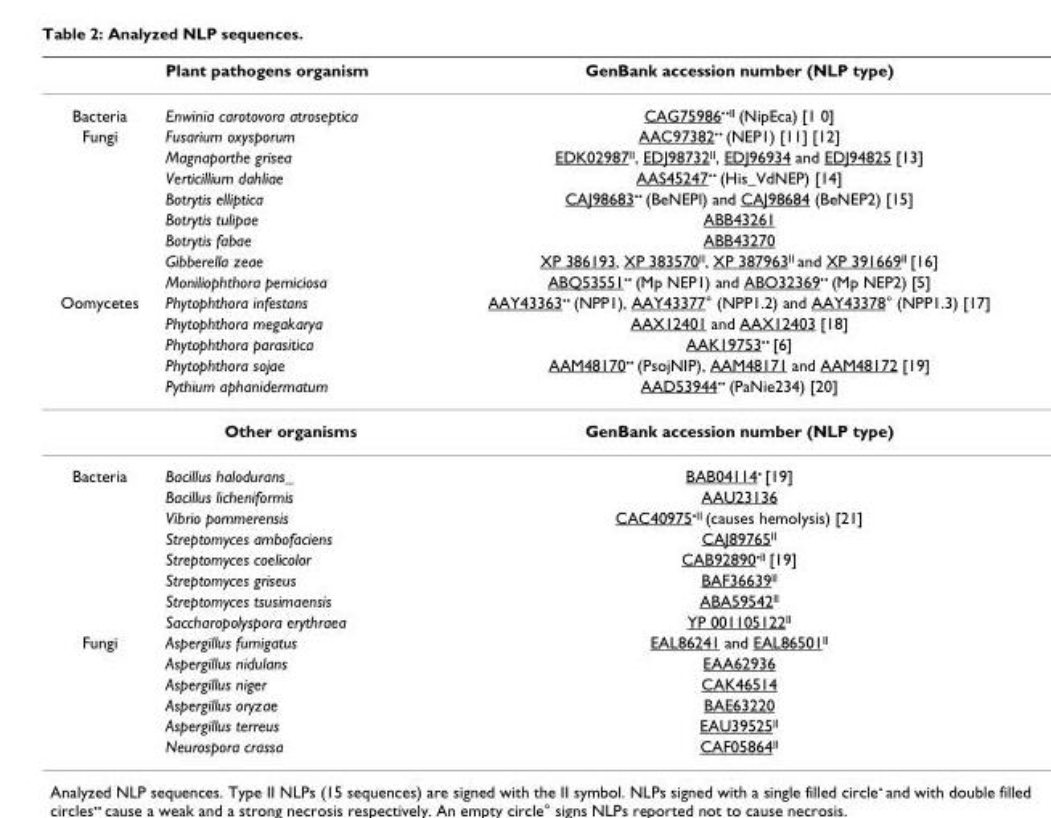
<table><thead><tr><td></td><td>Plant pathogens organism</td><td>GenBank accession number (NLP type)</td></tr></thead><tbody><tr><td>Bacteria</td><td>Enwinia carotovora atroseptica</td><td>CAG75986<sup>••II</sup> (NipEca) [1 0]</td></tr><tr><td rowspan="8">Fungi</td><td>Fusarium oxysporum</td><td>AAC97382<sup>••</sup> (NEP1) [11] [12]</td></tr><tr><td>Magnaporthe grisea</td><td>EDK02987<sup>II</sup>, EDJ98732<sup>II</sup>, EDJ96934 and EDJ94825 [13]</td></tr><tr><td>Verticillium dahliae</td><td>AAS45247<sup>••</sup> (His_VdNEP) [14]</td></tr><tr><td>Botrytis elliptica</td><td>CAJ98683<sup>••</sup> (BeNEPl) and CAJ98684 (BeNEP2) [15]</td></tr><tr><td>Botrytis tulipae</td><td>ABB43261</td></tr><tr><td>Botrytis fabae</td><td>ABB43270</td></tr><tr><td>Gibberella zeae</td><td>XP 386193, XP 383570<sup>II</sup>, XP 387963<sup>II</sup> and XP 391669<sup>II</sup> [16]</td></tr><tr><td>Moniliophthora pemiciosa</td><td>ABQ53551<sup>••</sup> (Mp NEP1) and ABO32369<sup>••</sup> (Mp NEP2) [5]</td></tr><tr><td rowspan="6">Oomycetes</td><td>Phytophthora infestans</td><td>AAY43363<sup>••</sup> (NPP1), AAY43377° (NPP1.2) and AAY43378° (NPP1.3) [17]</td></tr><tr><td>Phytophthora megakarya</td><td>AAX12401 and AAX12403 [18]</td></tr><tr><td>Phytophthora parasitica</td><td>AAK19753<sup>••</sup> [6]</td></tr><tr><td>Phytophthora sojae</td><td>AAM48170<sup>••</sup> (PsojNIP), AAM48171 and AAM48172 [19]</td></tr><tr><td>Pythium aphanidermatum</td><td>AAD53944<sup>••</sup> (PaNie234) [20]</td></tr><tr><td>Other organisms</td><td>GenBank accession number (NLP type)</td></tr><tr><td rowspan="8">Bacteria</td><td>Bacillus halodurans_</td><td>BAB04114<sup>•</sup> [19]</td></tr><tr><td>Bacillus licheniformis</td><td>AAU23136</td></tr><tr><td>Vibrio pommerensis</td><td>CAC40975<sup>•II</sup> (causes hemolysis) [21]</td></tr><tr><td>Streptomyces ambofaciens</td><td>CAJ89765<sup>II</sup></td></tr><tr><td>Streptomyces coelicolor</td><td>CAB92890<sup>•II</sup> [19]</td></tr><tr><td>Streptomyces griseus</td><td>BAF36639<sup>II</sup></td></tr><tr><td>Streptomyces tsusimaensis</td><td>ABA59542<sup>II</sup></td></tr><tr><td>Saccharopolyspora erythraea</td><td>YP 001105122<sup>II</sup></td></tr><tr><td rowspan="6">Fungi</td><td>Aspergillus fumigatus</td><td>EAL86241 and EAL86501<sup>II</sup></td></tr><tr><td>Aspergillus nidulans</td><td>EAA62936</td></tr><tr><td>Aspergillus niger</td><td>CAK46514</td></tr><tr><td>Aspergillus oryzae</td><td>BAE63220</td></tr><tr><td>Aspergillus terreus</td><td>EAU39525<sup>II</sup></td></tr><tr><td>Neurospora crassa</td><td>CAF05864<sup>II</sup></td></tr></tbody></table>